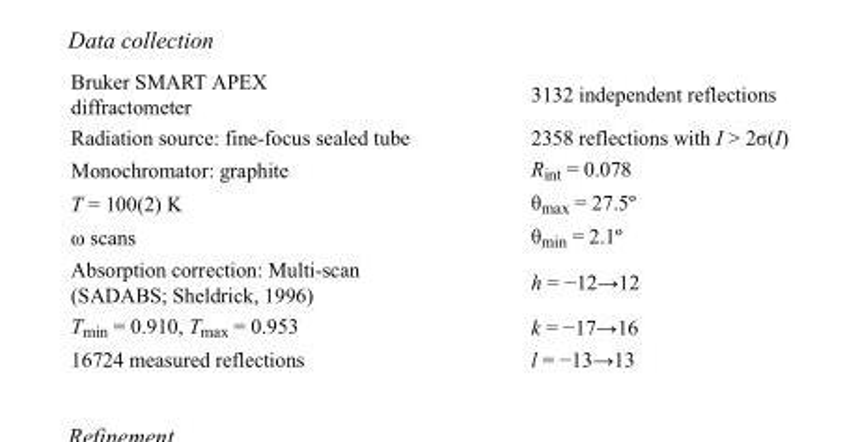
<table><tbody><tr><td>Bruker SMART APEX diffractometer</td><td>3132 independent reflections</td></tr><tr><td>Radiation source: fine-focus sealed tube</td><td>2358 reflections with I &gt; 2σ(I)</td></tr><tr><td>Monochromator: graphite</td><td>R<sub>int</sub> = 0.078</td></tr><tr><td>T = 100(2) K</td><td>θ<sub>max</sub> = 27.5º</td></tr><tr><td>ω scans</td><td>θ<sub>min</sub> = 2.1º</td></tr><tr><td>Absorption correction: Multi-scan (SADABS; Sheldrick, 1996)</td><td>h = −12→12</td></tr><tr><td>T<sub>min</sub> = 0.910, T<sub>max</sub> = 0.953</td><td>k = −17→16</td></tr><tr><td>16724 measured reflections</td><td>l = −13→13</td></tr></tbody></table>